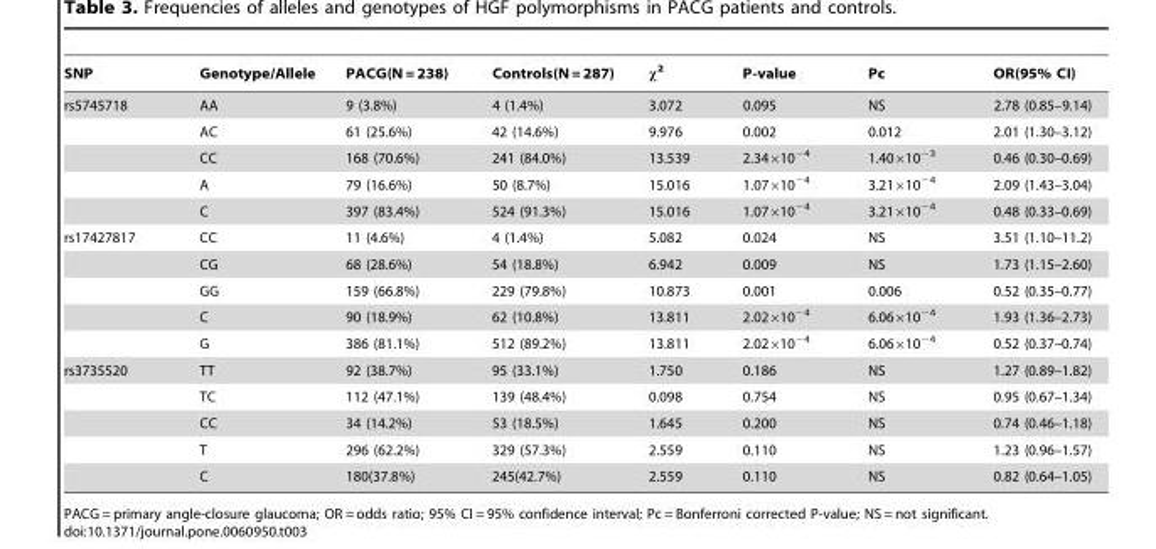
<table><thead><tr><td>SNP</td><td>Genotype/Allele</td><td>PACG(N = 238)</td><td>Controls(N = 287)</td><td>χ<sup>2</sup></td><td>P-value</td><td>Pc</td><td>OR(95% CI)</td></tr></thead><tbody><tr><td rowspan="5">rs5745718</td><td>AA</td><td>9 (3.8%)</td><td>4 (1.4%)</td><td>3.072</td><td>0.095</td><td>NS</td><td>2.78 (0.85–9.14)</td></tr><tr><td>AC</td><td>61 (25.6%)</td><td>42 (14.6%)</td><td>9.976</td><td>0.002</td><td>0.012</td><td>2.01 (1.30–3.12)</td></tr><tr><td>CC</td><td>168 (70.6%)</td><td>241 (84.0%)</td><td>13.539</td><td>2.34×10<sup>−4</sup></td><td>1.40×10<sup>−3</sup></td><td>0.46 (0.30–0.69)</td></tr><tr><td>A</td><td>79 (16.6%)</td><td>50 (8.7%)</td><td>15.016</td><td>1.07×10<sup>−4</sup></td><td>3.21×10<sup>−4</sup></td><td>2.09 (1.43–3.04)</td></tr><tr><td>C</td><td>397 (83.4%)</td><td>524 (91.3%)</td><td>15.016</td><td>1.07×10<sup>−4</sup></td><td>3.21×10<sup>−4</sup></td><td>0.48 (0.33–0.69)</td></tr><tr><td rowspan="5">rs17427817</td><td>CC</td><td>11 (4.6%)</td><td>4 (1.4%)</td><td>5.082</td><td>0.024</td><td>NS</td><td>3.51 (1.10–11.2)</td></tr><tr><td>CG</td><td>68 (28.6%)</td><td>54 (18.8%)</td><td>6.942</td><td>0.009</td><td>NS</td><td>1.73 (1.15–2.60)</td></tr><tr><td>GG</td><td>159 (66.8%)</td><td>229 (79.8%)</td><td>10.873</td><td>0.001</td><td>0.006</td><td>0.52 (0.35–0.77)</td></tr><tr><td>C</td><td>90 (18.9%)</td><td>62 (10.8%)</td><td>13.811</td><td>2.02×10<sup>−4</sup></td><td>6.06×10<sup>−4</sup></td><td>1.93 (1.36–2.73)</td></tr><tr><td>G</td><td>386 (81.1%)</td><td>512 (89.2%)</td><td>13.811</td><td>2.02×10<sup>−4</sup></td><td>6.06×10<sup>−4</sup></td><td>0.52 (0.37–0.74)</td></tr><tr><td rowspan="5">rs3735520</td><td>TT</td><td>92 (38.7%)</td><td>95 (33.1%)</td><td>1.750</td><td>0.186</td><td>NS</td><td>1.27 (0.89–1.82)</td></tr><tr><td>TC</td><td>112 (47.1%)</td><td>139 (48.4%)</td><td>0.098</td><td>0.754</td><td>NS</td><td>0.95 (0.67–1.34)</td></tr><tr><td>CC</td><td>34 (14.2%)</td><td>53 (18.5%)</td><td>1.645</td><td>0.200</td><td>NS</td><td>0.74 (0.46–1.18)</td></tr><tr><td>T</td><td>296 (62.2%)</td><td>329 (57.3%)</td><td>2.559</td><td>0.110</td><td>NS</td><td>1.23 (0.96–1.57)</td></tr><tr><td>C</td><td>180(37.8%)</td><td>245(42.7%)</td><td>2.559</td><td>0.110</td><td>NS</td><td>0.82 (0.64–1.05)</td></tr></tbody></table>